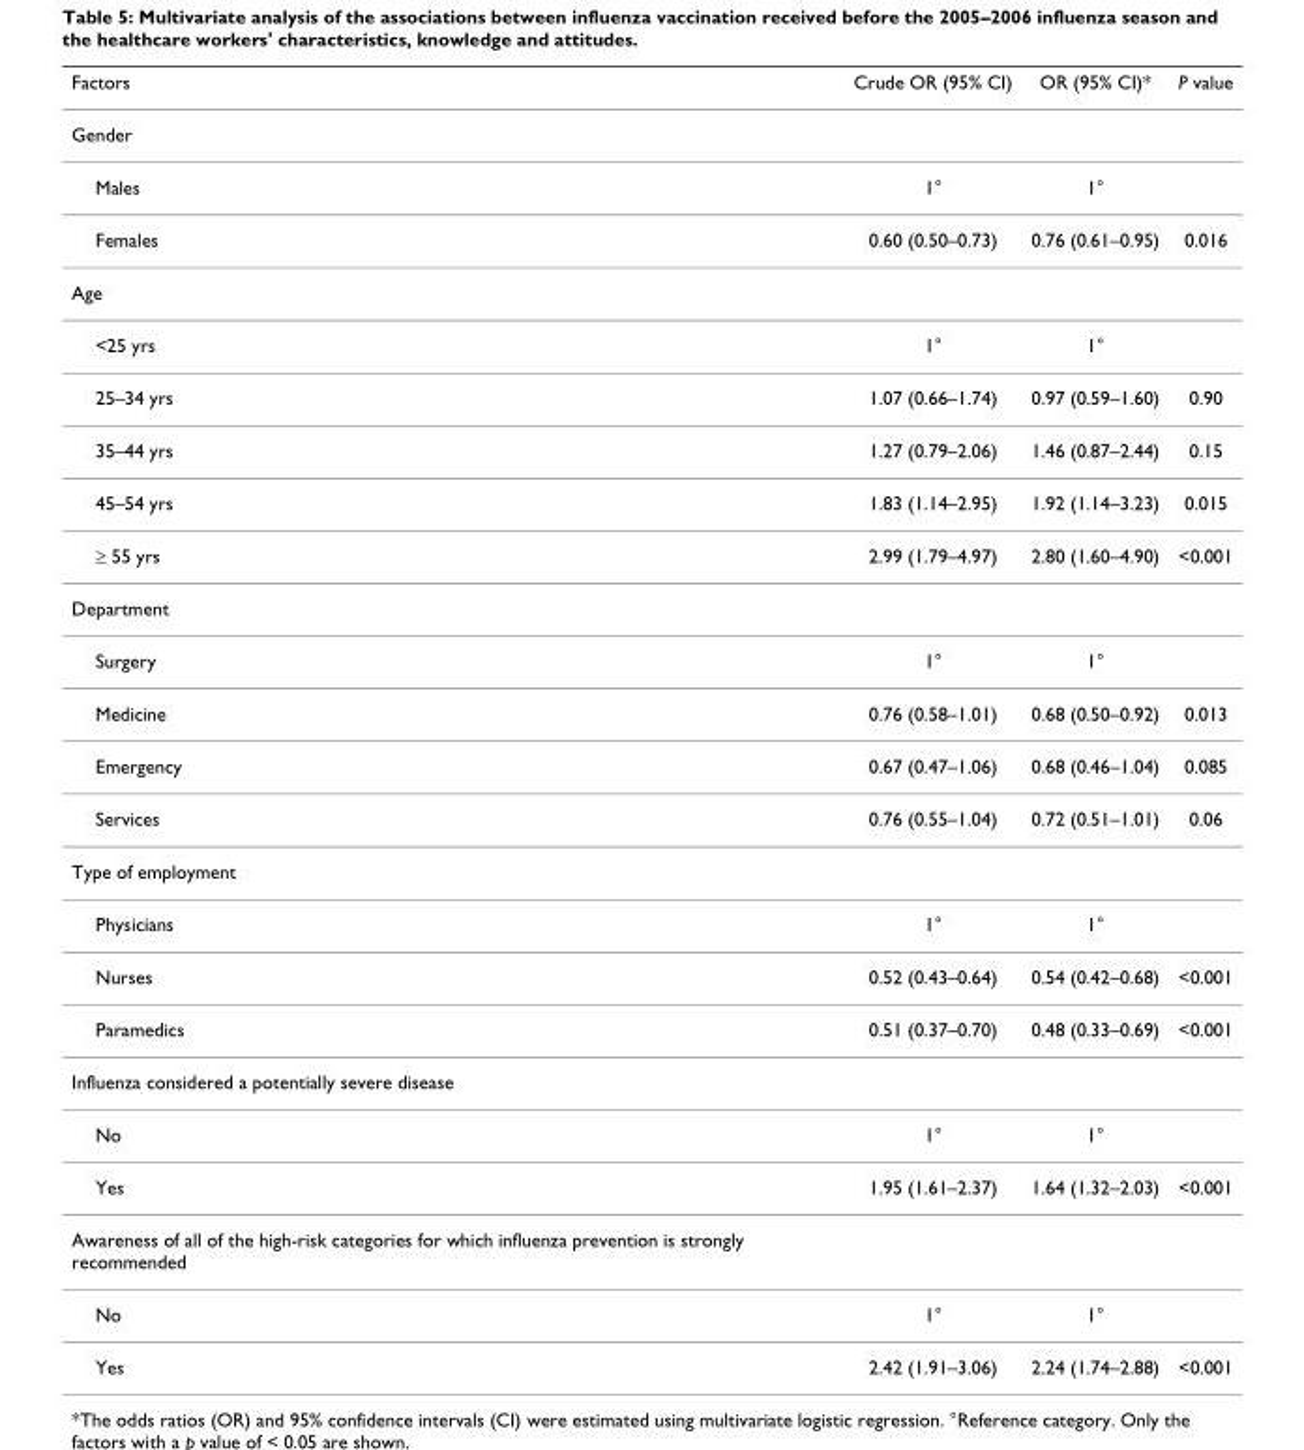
<table><thead><tr><td>Factors</td><td>Crude OR (95% CI)</td><td>OR (95% CI)*</td><td>P value</td></tr></thead><tbody><tr><td colspan="4">Gender</td></tr><tr><td>Males</td><td>1°</td><td>1°</td><td></td></tr><tr><td>Females</td><td>0.60 (0.50–0.73)</td><td>0.76 (0.61–0.95)</td><td>0.016</td></tr><tr><td colspan="4">Age</td></tr><tr><td>&lt;25 yrs</td><td>1°</td><td>1°</td><td></td></tr><tr><td>25–34 yrs</td><td>1.07 (0.66–1.74)</td><td>0.97 (0.59–1.60)</td><td>0.90</td></tr><tr><td>35–44 yrs</td><td>1.27 (0.79–2.06)</td><td>1.46 (0.87–2.44)</td><td>0.15</td></tr><tr><td>45–54 yrs</td><td>1.83 (1.14–2.95)</td><td>1.92 (1.14–3.23)</td><td>0.015</td></tr><tr><td>≥ 55 yrs</td><td>2.99 (1.79–4.97)</td><td>2.80 (1.60–4.90)</td><td>&lt;0.001</td></tr><tr><td colspan="4">Department</td></tr><tr><td>Surgery</td><td>1°</td><td>1°</td><td></td></tr><tr><td>Medicine</td><td>0.76 (0.58–1.01)</td><td>0.68 (0.50–0.92)</td><td>0.013</td></tr><tr><td>Emergency</td><td>0.67 (0.47–1.06)</td><td>0.68 (0.46–1.04)</td><td>0.085</td></tr><tr><td>Services</td><td>0.76 (0.55–1.04)</td><td>0.72 (0.51–1.01)</td><td>0.06</td></tr><tr><td colspan="4">Type of employment</td></tr><tr><td>Physicians</td><td>1°</td><td>1°</td><td></td></tr><tr><td>Nurses</td><td>0.52 (0.43–0.64)</td><td>0.54 (0.42–0.68)</td><td>&lt;0.001</td></tr><tr><td>Paramedics</td><td>0.51 (0.37–0.70)</td><td>0.48 (0.33–0.69)</td><td>&lt;0.001</td></tr><tr><td colspan="4">Influenza considered a potentially severe disease</td></tr><tr><td>No</td><td>1°</td><td>1°</td><td></td></tr><tr><td>Yes</td><td>1.95 (1.61–2.37)</td><td>1.64 (1.32–2.03)</td><td>&lt;0.001</td></tr><tr><td colspan="4">Awareness of all of the high-risk categories for which influenza prevention is strongly recommended</td></tr><tr><td>No</td><td>1°</td><td>1°</td><td></td></tr><tr><td>Yes</td><td>2.42 (1.91–3.06)</td><td>2.24 (1.74–2.88)</td><td>&lt;0.001</td></tr></tbody></table>